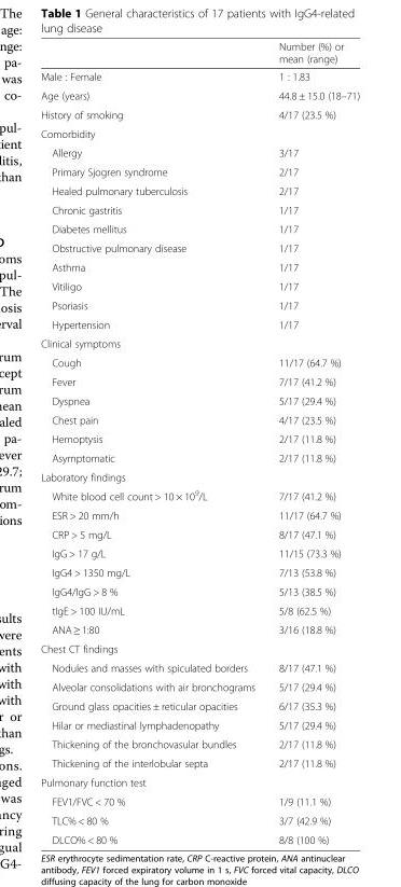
<table><thead><tr><td></td><td>Number (%) or mean (range)</td></tr></thead><tbody><tr><td>Male : Female</td><td>1 : 1.83</td></tr><tr><td>Age (years)</td><td>44.8 ± 15.0 (18–71)</td></tr><tr><td>History of smoking</td><td>4/17 (23.5 %)</td></tr><tr><td colspan="2">Comorbidity</td></tr><tr><td>Allergy</td><td>3/17</td></tr><tr><td>Primary Sjogren syndrome</td><td>2/17</td></tr><tr><td>Healed pulmonary tuberculosis</td><td>2/17</td></tr><tr><td>Chronic gastritis</td><td>1/17</td></tr><tr><td>Diabetes mellitus</td><td>1/17</td></tr><tr><td>Obstructive pulmonary disease</td><td>1/17</td></tr><tr><td>Asthma</td><td>1/17</td></tr><tr><td>Vitiligo</td><td>1/17</td></tr><tr><td>Psoriasis</td><td>1/17</td></tr><tr><td>Hypertension</td><td>1/17</td></tr><tr><td colspan="2">Clinical symptoms</td></tr><tr><td>Cough</td><td>11/17 (64.7 %)</td></tr><tr><td>Fever</td><td>7/17 (41.2 %)</td></tr><tr><td>Dyspnea</td><td>5/17 (29.4 %)</td></tr><tr><td>Chest pain</td><td>4/17 (23.5 %)</td></tr><tr><td>Hemoptysis</td><td>2/17 (11.8 %)</td></tr><tr><td>Asymptomatic</td><td>2/17 (11.8 %)</td></tr><tr><td colspan="2">Laboratory findings</td></tr><tr><td>White blood cell count &gt; 10 × 10<sup>9</sup>/L</td><td>7/17 (41.2 %)</td></tr><tr><td>ESR &gt; 20 mm/h</td><td>11/17 (64.7 %)</td></tr><tr><td>CRP &gt; 5 mg/L</td><td>8/17 (47.1 %)</td></tr><tr><td>IgG &gt; 17 g/L</td><td>11/15 (73.3 %)</td></tr><tr><td>IgG4 &gt; 1350 mg/L</td><td>7/13 (53.8 %)</td></tr><tr><td>IgG4/IgG &gt; 8 %</td><td>5/13 (38.5 %)</td></tr><tr><td>tIgE &gt; 100 IU/mL</td><td>5/8 (62.5 %)</td></tr><tr><td>ANA ≥ 1:80</td><td>3/16 (18.8 %)</td></tr><tr><td colspan="2">Chest CT findings</td></tr><tr><td>Nodules and masses with spiculated borders</td><td>8/17 (47.1 %)</td></tr><tr><td>Alveolar consolidations with air bronchograms</td><td>5/17 (29.4 %)</td></tr><tr><td>Ground glass opacities ± reticular opacities</td><td>6/17 (35.3 %)</td></tr><tr><td>Hilar or mediastinal lymphadenopathy</td><td>5/17 (29.4 %)</td></tr><tr><td>Thickening of the bronchovasular bundles</td><td>2/17 (11.8 %)</td></tr><tr><td>Thickening of the interlobular septa</td><td>2/17 (11.8 %)</td></tr><tr><td colspan="2">Pulmonary function test</td></tr><tr><td>FEV1/FVC &lt; 70 %</td><td>1/9 (11.1 %)</td></tr><tr><td>TLC% &lt; 80 %</td><td>3/7 (42.9 %)</td></tr><tr><td>DLCO% &lt; 80 %</td><td>8/8 (100 %)</td></tr></tbody></table>